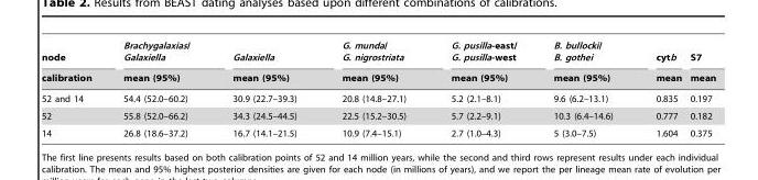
<table><thead><tr><td rowspan="2">node calibration</td><td rowspan="2">Brachygalaxias/ Galaxiella mean (95%)</td><td rowspan="2">Galaxiella mean (95%)</td><td rowspan="2">G. munda/ G. nigrostriata mean (95%)</td><td rowspan="2">G. pusilla-east/ G. pusilla-west mean (95%)</td><td rowspan="2">B. bullocki/ B. gothei mean (95%)</td><td rowspan="2">cytb mean</td><td rowspan="2">S7 mean</td></tr><tr></tr></thead><tbody><tr><td>52 and 14</td><td>54.4 (52.0–60.2)</td><td>30.9 (22.7–39.3)</td><td>20.8 (14.8–27.1)</td><td>5.2 (2.1–8.1)</td><td>9.6 (6.2–13.1)</td><td>0.835</td><td>0.197</td></tr><tr><td>52</td><td>55.8 (52.0–66.2)</td><td>34.3 (24.5–44.5)</td><td>22.5 (15.2–30.5)</td><td>5.7 (2.2–9.1)</td><td>10.3 (6.4–14.6)</td><td>0.777</td><td>0.182</td></tr><tr><td>14</td><td>26.8 (18.6–37.2)</td><td>16.7 (14.1–21.5)</td><td>10.9 (7.4–15.1)</td><td>2.7 (1.0–4.3)</td><td>5 (3.0–7.5)</td><td>1.604</td><td>0.375</td></tr></tbody></table>